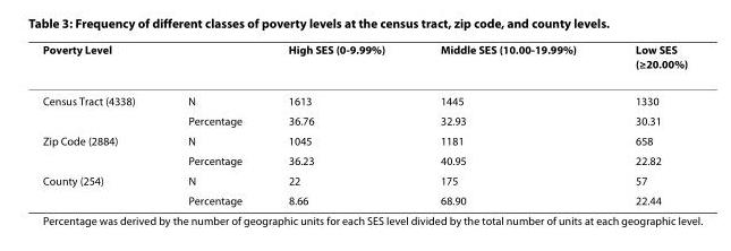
<table><thead><tr><td>Poverty Level</td><td></td><td>High SES (0-9.99%)</td><td>Middle SES (10.00-19.99%)</td><td>Low SES (≥20.00%)</td></tr></thead><tbody><tr><td rowspan="2">Census Tract (4338)</td><td>N</td><td>1613</td><td>1445</td><td>1330</td></tr><tr><td>Percentage</td><td>36.76</td><td>32.93</td><td>30.31</td></tr><tr><td rowspan="2">Zip Code (2884)</td><td>N</td><td>1045</td><td>1181</td><td>658</td></tr><tr><td>Percentage</td><td>36.23</td><td>40.95</td><td>22.82</td></tr><tr><td rowspan="2">County (254)</td><td>N</td><td>22</td><td>175</td><td>57</td></tr><tr><td>Percentage</td><td>8.66</td><td>68.90</td><td>22.44</td></tr></tbody></table>